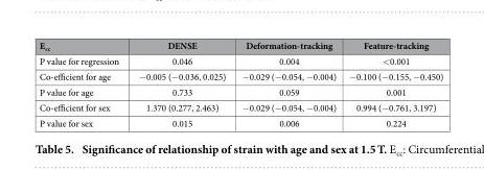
<table><thead><tr><td>E<sub>cc</sub></td><td>DENSE</td><td>Deformation-tracking</td><td>Feature-tracking</td></tr></thead><tbody><tr><td>P value for regression</td><td>0.046</td><td>0.004</td><td>&lt; 0.001</td></tr><tr><td>Co-efficient for age</td><td>− 0.005 (− 0.036, 0.025)</td><td>− 0.029 (− 0.054, − 0.004)</td><td>− 0.100 (− 0.155, − 0.450)</td></tr><tr><td>P value for age</td><td>0.733</td><td>0.059</td><td>0.001</td></tr><tr><td>Co-efficient for sex</td><td>1.370 (0.277, 2.463)</td><td>− 0.029 (− 0.054, − 0.004)</td><td>0.994 (− 0.761, 3.197)</td></tr><tr><td>P value for sex</td><td>0.015</td><td>0.006</td><td>0.224</td></tr></tbody></table>